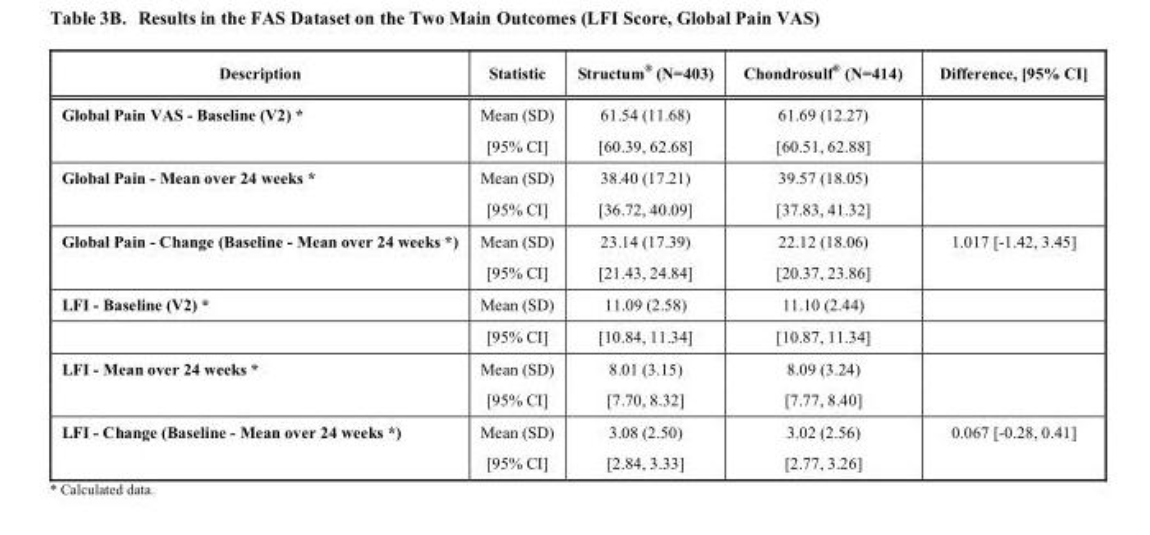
<table><thead><tr><td>Description</td><td>Statistic</td><td>Structum<sup>®</sup> (N=403)</td><td>Chondrosulf<sup>®</sup> (N=414)</td><td>Difference, [95% CI]</td></tr></thead><tbody><tr><td rowspan="2">Global Pain VAS - Baseline (V2) *</td><td>Mean (SD)</td><td>61.54 (11.68)</td><td>61.69 (12.27)</td><td></td></tr><tr><td>[95% CI]</td><td>[60.39, 62.68]</td><td>[60.51, 62.88]</td><td></td></tr><tr><td rowspan="2">Global Pain - Mean over 24 weeks *</td><td>Mean (SD)</td><td>38.40 (17.21)</td><td>39.57 (18.05)</td><td></td></tr><tr><td>[95% CI]</td><td>[36.72, 40.09]</td><td>[37.83, 41.32]</td><td></td></tr><tr><td rowspan="2">Global Pain - Change (Baseline - Mean over 24 weeks *)</td><td>Mean (SD)</td><td>23.14 (17.39)</td><td>22.12 (18.06)</td><td>1.017 [-1.42, 3.45]</td></tr><tr><td>[95% CI]</td><td>[21.43, 24.84]</td><td>[20.37, 23.86]</td><td></td></tr><tr><td rowspan="2">LFI - Baseline (V2) *</td><td>Mean (SD)</td><td>11.09 (2.58)</td><td>11.10 (2.44)</td><td></td></tr><tr><td>[95% CI]</td><td>[10.84, 11.34]</td><td>[10.87, 11.34]</td><td></td></tr><tr><td rowspan="2">LFI - Mean over 24 weeks *</td><td>Mean (SD)</td><td>8.01 (3.15)</td><td>8.09 (3.24)</td><td></td></tr><tr><td>[95% CI]</td><td>[7.70, 8.32]</td><td>[7.77, 8.40]</td><td></td></tr><tr><td rowspan="2">LFI - Change (Baseline - Mean over 24 weeks *)</td><td>Mean (SD)</td><td>3.08 (2.50)</td><td>3.02 (2.56)</td><td>0.067 [-0.28, 0.41]</td></tr><tr><td>[95% CI]</td><td>[2.84, 3.33]</td><td>[2.77, 3.26]</td><td></td></tr></tbody></table>